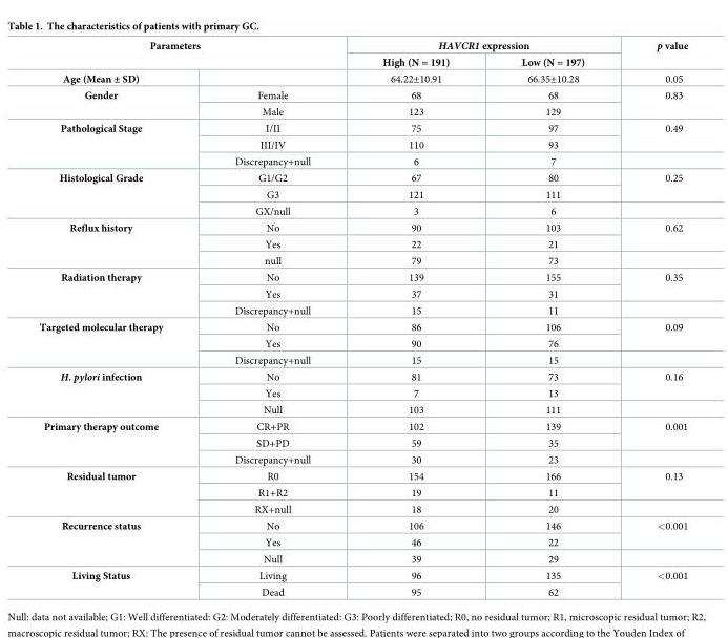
<table><thead><tr><td rowspan="2" colspan="2">Parameters</td><td colspan="2">HAVCR1 expression</td><td rowspan="3">p value 0.05</td></tr><tr><td rowspan="2">High (N = 191) 64.22±10.91</td><td rowspan="2">Low (N = 197) 66.35±10.28</td></tr><tr><td>Age (Mean ± SD)</td><td></td></tr></thead><tbody><tr><td rowspan="2">Gender</td><td>Female</td><td>68</td><td>68</td><td rowspan="2">0.83</td></tr><tr><td>Male</td><td>123</td><td>129</td></tr><tr><td rowspan="3">Pathological Stage</td><td>I/II</td><td>75</td><td>97</td><td rowspan="2">0.49</td></tr><tr><td>III/IV</td><td>110</td><td>93</td></tr><tr><td>Discrepancy+null</td><td>6</td><td>7</td><td></td></tr><tr><td rowspan="3">Histological Grade</td><td>G1/G2</td><td>67</td><td>80</td><td rowspan="2">0.25</td></tr><tr><td>G3</td><td>121</td><td>111</td></tr><tr><td>GX/null</td><td>3</td><td>6</td><td></td></tr><tr><td rowspan="3">Reflux history</td><td>No</td><td>90</td><td>103</td><td rowspan="2">0.62</td></tr><tr><td>Yes</td><td>22</td><td>21</td></tr><tr><td>null</td><td>79</td><td>73</td><td></td></tr><tr><td rowspan="3">Radiation therapy</td><td>No</td><td>139</td><td>155</td><td rowspan="2">0.35</td></tr><tr><td>Yes</td><td>37</td><td>31</td></tr><tr><td>Discrepancy+null</td><td>15</td><td>11</td><td></td></tr><tr><td rowspan="3">Targeted molecular therapy</td><td>No</td><td>86</td><td>106</td><td rowspan="2">0.09</td></tr><tr><td>Yes</td><td>90</td><td>76</td></tr><tr><td>Discrepancy+null</td><td>15</td><td>15</td><td></td></tr><tr><td rowspan="3">H. pylori infection</td><td>No</td><td>81</td><td>73</td><td rowspan="2">0.16</td></tr><tr><td>Yes</td><td>7</td><td>13</td></tr><tr><td>Null</td><td>103</td><td>111</td><td></td></tr><tr><td rowspan="3">Primary therapy outcome</td><td>CR+PR</td><td>102</td><td>139</td><td rowspan="2">0.001</td></tr><tr><td>SD+PD</td><td>59</td><td>35</td></tr><tr><td>Discrepancy+null</td><td>30</td><td>23</td><td></td></tr><tr><td rowspan="3">Residual tumor</td><td>R0</td><td>154</td><td>166</td><td rowspan="2">0.13</td></tr><tr><td>R1+R2</td><td>19</td><td>11</td></tr><tr><td>RX+null</td><td>18</td><td>20</td><td></td></tr><tr><td rowspan="3">Recurrence status</td><td>No</td><td>106</td><td>146</td><td rowspan="2">&lt;0.001</td></tr><tr><td>Yes</td><td>46</td><td>22</td></tr><tr><td>Null</td><td>39</td><td>29</td><td></td></tr><tr><td rowspan="2">Living Status</td><td>Living</td><td>96</td><td>135</td><td rowspan="2">&lt;0.001</td></tr><tr><td>Dead</td><td>95</td><td>62</td></tr></tbody></table>